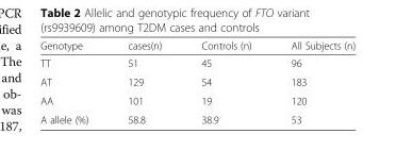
<table><thead><tr><td>Genotype</td><td>cases(n)</td><td>Controls (n)</td><td>All Subjects (n)</td></tr></thead><tbody><tr><td>TT</td><td>51</td><td>45</td><td>96</td></tr><tr><td>AT</td><td>129</td><td>54</td><td>183</td></tr><tr><td>AA</td><td>101</td><td>19</td><td>120</td></tr><tr><td>A allele (%)</td><td>58.8</td><td>38.9</td><td>53</td></tr></tbody></table>